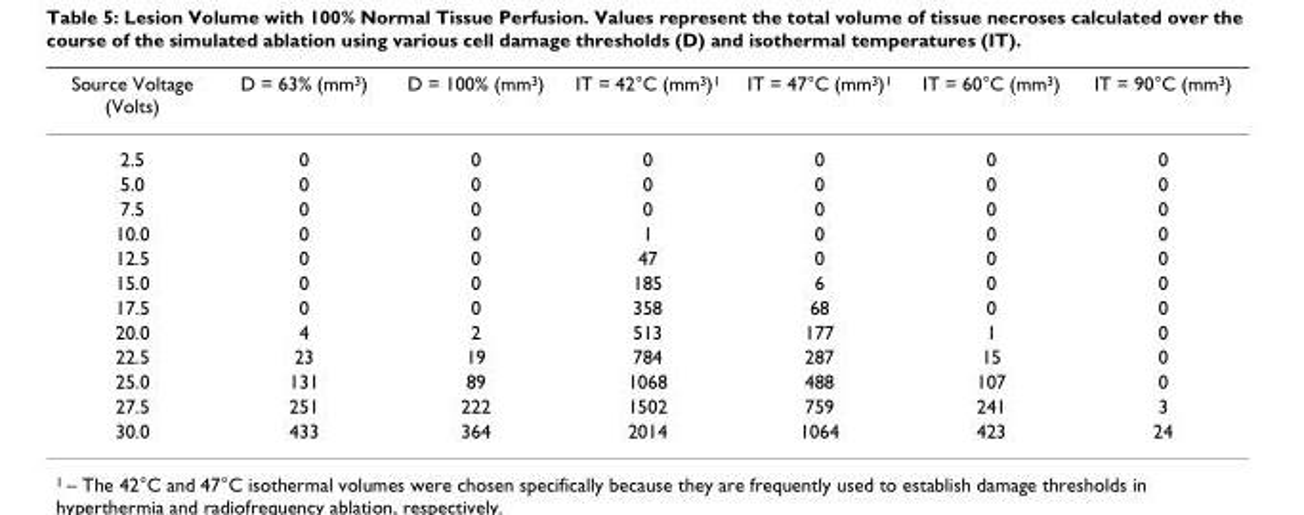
<table><thead><tr><td>Source Voltage (Volts)</td><td>D = 63% (mm<sup>3</sup>)</td><td>D = 100% (mm<sup>3</sup>)</td><td>IT = 42°C (mm<sup>3</sup>)<sup>1</sup></td><td>IT = 47°C (mm<sup>3</sup>)<sup>1</sup></td><td>IT = 60°C (mm<sup>3</sup>)</td><td>IT = 90°C (mm<sup>3</sup>)</td></tr></thead><tbody><tr><td>2.5</td><td>0</td><td>0</td><td>0</td><td>0</td><td>0</td><td>0</td></tr><tr><td>5.0</td><td>0</td><td>0</td><td>0</td><td>0</td><td>0</td><td>0</td></tr><tr><td>7.5</td><td>0</td><td>0</td><td>0</td><td>0</td><td>0</td><td>0</td></tr><tr><td>10.0</td><td>0</td><td>0</td><td>1</td><td>0</td><td>0</td><td>0</td></tr><tr><td>12.5</td><td>0</td><td>0</td><td>47</td><td>0</td><td>0</td><td>0</td></tr><tr><td>15.0</td><td>0</td><td>0</td><td>185</td><td>6</td><td>0</td><td>0</td></tr><tr><td>17.5</td><td>0</td><td>0</td><td>358</td><td>68</td><td>0</td><td>0</td></tr><tr><td>20.0</td><td>4</td><td>2</td><td>513</td><td>177</td><td>1</td><td>0</td></tr><tr><td>22.5</td><td>23</td><td>19</td><td>784</td><td>287</td><td>15</td><td>0</td></tr><tr><td>25.0</td><td>131</td><td>89</td><td>1068</td><td>488</td><td>107</td><td>0</td></tr><tr><td>27.5</td><td>251</td><td>222</td><td>1502</td><td>759</td><td>241</td><td>3</td></tr><tr><td>30.0</td><td>433</td><td>364</td><td>2014</td><td>1064</td><td>423</td><td>24</td></tr></tbody></table>